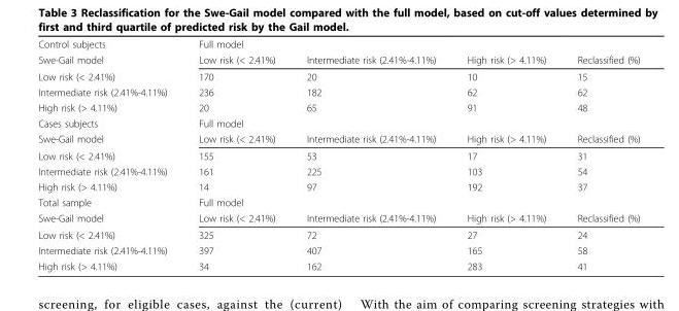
<table><tbody><tr><td>Control subjects</td><td>Full model</td><td></td><td></td><td></td></tr><tr><td>Swe-Gail model</td><td>Low risk (&lt; 2.41%)</td><td>Intermediate risk (2.41%-4.11%)</td><td>High risk (&gt; 4.11%)</td><td>Reclassified (%)</td></tr><tr><td>Low risk (&lt; 2.41%)</td><td>170</td><td>20</td><td>10</td><td>15</td></tr><tr><td>Intermediate risk (2.41%-4.11%)</td><td>236</td><td>182</td><td>62</td><td>62</td></tr><tr><td>High risk (&gt; 4.11%)</td><td>20</td><td>65</td><td>91</td><td>48</td></tr><tr><td>Cases subjects</td><td>Full model</td><td></td><td></td><td></td></tr><tr><td>Swe-Gail model</td><td>Low risk (&lt; 2.41%)</td><td>Intermediate risk (2.41%-4.11%)</td><td>High risk (&gt; 4.11%)</td><td>Reclassified (%)</td></tr><tr><td>Low risk (&lt; 2.41%)</td><td>155</td><td>53</td><td>17</td><td>31</td></tr><tr><td>Intermediate risk (2.41%-4.11%)</td><td>161</td><td>225</td><td>103</td><td>54</td></tr><tr><td>High risk (&gt; 4.11%)</td><td>14</td><td>97</td><td>192</td><td>37</td></tr><tr><td>Total sample</td><td>Full model</td><td></td><td></td><td></td></tr><tr><td>Swe-Gail model</td><td>Low risk (&lt; 2.41%)</td><td>Intermediate risk (2.41%-4.11%)</td><td>High risk (&gt; 4.11%)</td><td>Reclassified (%)</td></tr><tr><td>Low risk (&lt; 2.41%)</td><td>325</td><td>72</td><td>27</td><td>24</td></tr><tr><td>Intermediate risk (2.41%-4.11%)</td><td>397</td><td>407</td><td>165</td><td>58</td></tr><tr><td>High risk (&gt; 4.11%)</td><td>34</td><td>162</td><td>283</td><td>41</td></tr></tbody></table>